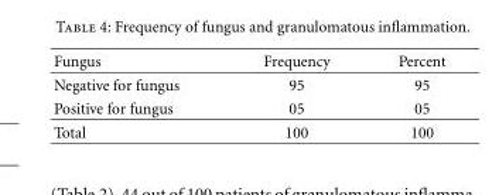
<table><thead><tr><td>Fungus</td><td>Frequency</td><td>Percent</td></tr></thead><tbody><tr><td>Negative for fungus</td><td>95</td><td>95</td></tr><tr><td>Positive for fungus</td><td>05</td><td>05</td></tr><tr><td>Total</td><td>100</td><td>100</td></tr></tbody></table>